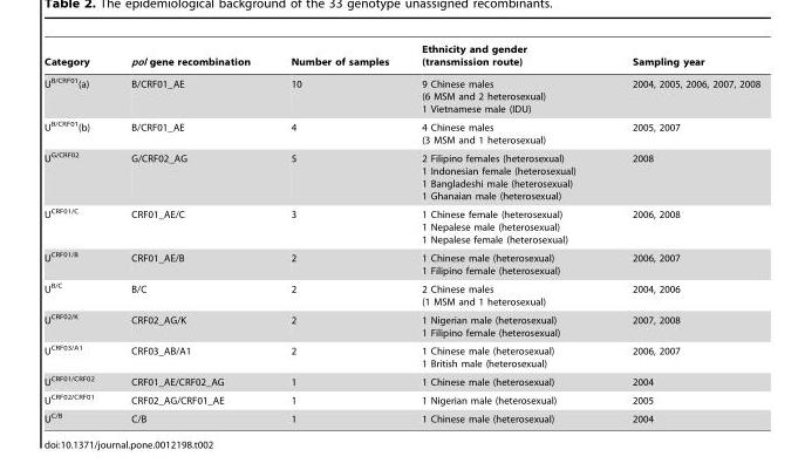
<table><thead><tr><td>Category</td><td>pol gene recombination</td><td>Number of samples</td><td>Ethnicity and gender (transmission route)</td><td>Sampling year</td></tr></thead><tbody><tr><td>U<sup>B/CRF01</sup>(a)</td><td>B/CRF01_AE</td><td>10</td><td>9 Chinese males (6 MSM and 2 heterosexual) 1 Vietnamese male (IDU)</td><td>2004, 2005, 2006, 2007, 2008</td></tr><tr><td>U<sup>B/CRF01</sup>(b)</td><td>B/CRF01_AE</td><td>4</td><td>4 Chinese males (3 MSM and 1 heterosexual)</td><td>2005, 2007</td></tr><tr><td>U<sup>G/CRF02</sup></td><td>G/CRF02_AG</td><td>5</td><td>2 Filipino females (heterosexual) 1 Indonesian female (heterosexual) 1 Bangladeshi male (heterosexual) 1 Ghanaian male (heterosexual)</td><td>2008</td></tr><tr><td>U<sup>CRF01/C</sup></td><td>CRF01_AE/C</td><td>3</td><td>1 Chinese female (heterosexual) 1 Nepalese male (heterosexual) 1 Nepalese female (heterosexual)</td><td>2006, 2008</td></tr><tr><td>U<sup>CRF01/B</sup></td><td>CRF01_AE/B</td><td>2</td><td>1 Chinese male (heterosexual) 1 Filipino female (heterosexual)</td><td>2006, 2007</td></tr><tr><td>U<sup>B/C</sup></td><td>B/C</td><td>2</td><td>2 Chinese males (1 MSM and 1 heterosexual)</td><td>2004, 2006</td></tr><tr><td>U<sup>CRF02/K</sup></td><td>CRF02_AG/K</td><td>2</td><td>1 Nigerian male (heterosexual) 1 Filipino female (heterosexual)</td><td>2007, 2008</td></tr><tr><td>U<sup>CRF03/A1</sup></td><td>CRF03_AB/A1</td><td>2</td><td>1 Chinese male (heterosexual) 1 British male (heterosexual)</td><td>2006, 2007</td></tr><tr><td>U<sup>CRF01/CRF02</sup></td><td>CRF01_AE/CRF02_AG</td><td>1</td><td>1 Chinese male (heterosexual)</td><td>2004</td></tr><tr><td>U<sup>CRF02/CRF01</sup></td><td>CRF02_AG/CRF01_AE</td><td>1</td><td>1 Nigerian male (heterosexual)</td><td>2005</td></tr><tr><td>U<sup>C/B</sup></td><td>C/B</td><td>1</td><td>1 Chinese male (heterosexual)</td><td>2004</td></tr></tbody></table>